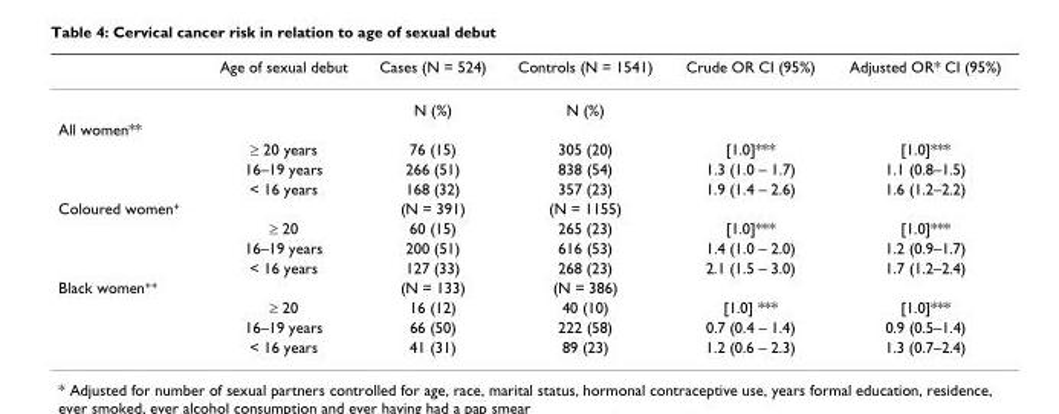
<table><thead><tr><td></td><td>Age of sexual debut</td><td>Cases (N = 524)</td><td>Controls (N = 1541)</td><td>Crude OR CI (95%)</td><td>Adjusted OR* CI (95%)</td></tr></thead><tbody><tr><td></td><td></td><td>N (%)</td><td>N (%)</td><td></td><td></td></tr><tr><td colspan="6">All women**</td></tr><tr><td></td><td>≥ 20 years</td><td>76 (15)</td><td>305 (20)</td><td>[1.0]***</td><td>[1.0]***</td></tr><tr><td></td><td>16–19 years</td><td>266 (51)</td><td>838 (54)</td><td>1.3 (1.0 – 1.7)</td><td>1.1 (0.8–1.5)</td></tr><tr><td></td><td>&lt; 16 years</td><td>168 (32)</td><td>357 (23)</td><td>1.9 (1.4 – 2.6)</td><td>1.6 (1.2–2.2)</td></tr><tr><td rowspan="4">Coloured women<sup>+</sup></td><td></td><td>(N = 391)</td><td>(N = 1155)</td><td></td><td></td></tr><tr><td>≥ 20</td><td>60 (15)</td><td>265 (23)</td><td>[1.0]***</td><td>[1.0]***</td></tr><tr><td>16–19 years</td><td>200 (51)</td><td>616 (53)</td><td>1.4 (1.0 – 2.0)</td><td>1.2 (0.9–1.7)</td></tr><tr><td>&lt; 16 years</td><td>127 (33)</td><td>268 (23)</td><td>2.1 (1.5 – 3.0)</td><td>1.7 (1.2–2.4)</td></tr><tr><td rowspan="4">Black women<sup>++</sup></td><td></td><td>(N = 133)</td><td>(N = 386)</td><td></td><td></td></tr><tr><td>≥ 20</td><td>16 (12)</td><td>40 (10)</td><td>[1.0] ***</td><td>[1.0]***</td></tr><tr><td>16–19 years</td><td>66 (50)</td><td>222 (58)</td><td>0.7 (0.4 – 1.4)</td><td>0.9 (0.5–1.4)</td></tr><tr><td>&lt; 16 years</td><td>41 (31)</td><td>89 (23)</td><td>1.2 (0.6 – 2.3)</td><td>1.3 (0.7–2.4)</td></tr></tbody></table>